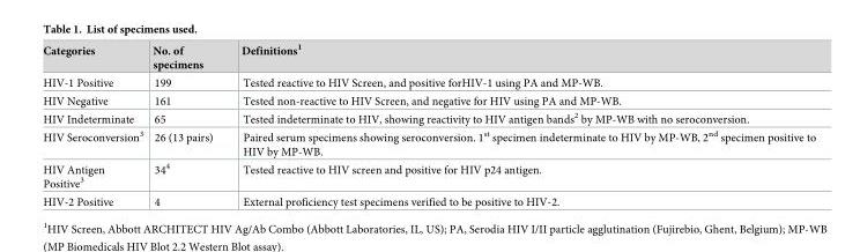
<table><thead><tr><td>Categories</td><td>No. of specimens</td><td>Definitions<sup>1</sup></td></tr></thead><tbody><tr><td>HIV-1 Positive</td><td>199</td><td>Tested reactive to HIV Screen, and positive forHIV-1 using PA and MP-WB.</td></tr><tr><td>HIV Negative</td><td>161</td><td>Tested non-reactive to HIV Screen, and negative for HIV using PA and MP-WB.</td></tr><tr><td>HIV Indeterminate</td><td>65</td><td>Tested indeterminate to HIV, showing reactivity to HIV antigen bands<sup>2</sup> by MP-WB with no seroconversion.</td></tr><tr><td>HIV Seroconversion<sup>3</sup></td><td>26 (13 pairs)</td><td>Paired serum specimens showing seroconversion. 1<sup>st</sup> specimen indeterminate to HIV by MP-WB, 2<sup>nd</sup> specimen positive to HIV by MP-WB.</td></tr><tr><td>HIV Antigen Positive<sup>3</sup></td><td>34<sup>4</sup></td><td>Tested reactive to HIV screen and positive for HIV p24 antigen.</td></tr><tr><td>HIV-2 Positive</td><td>4</td><td>External proficiency test specimens verified to be positive to HIV-2.</td></tr></tbody></table>